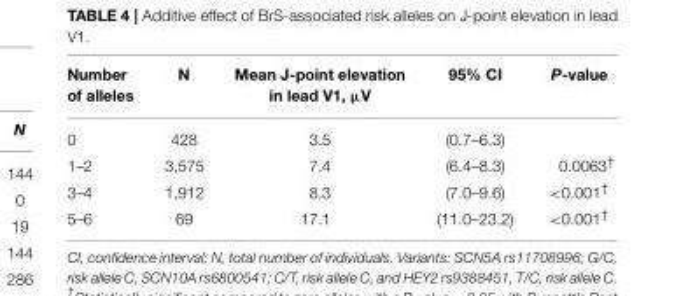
<table><thead><tr><td>Number of alleles</td><td>N</td><td>Mean J-point elevation in lead V1, µV</td><td>95% CI</td><td>P-value</td></tr></thead><tbody><tr><td>0</td><td>428</td><td>3.5</td><td>(0.7–6.3)</td><td></td></tr><tr><td>1–2</td><td>3,575</td><td>7.4</td><td>(6.4–8.3)</td><td>0.0063<sup>†</sup></td></tr><tr><td>3–4</td><td>1,912</td><td>8.3</td><td>(7.0–9.6)</td><td>&lt;0.001<sup>†</sup></td></tr><tr><td>5–6</td><td>69</td><td>17.1</td><td>(11.0–23.2)</td><td>&lt;0.001<sup>†</sup></td></tr></tbody></table>